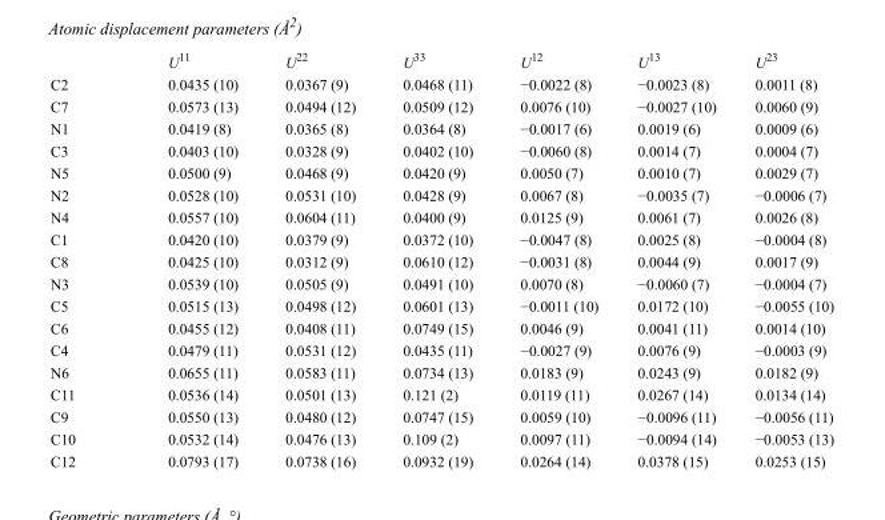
<table><thead><tr><td></td><td>U<sup>11</sup></td><td>U<sup>22</sup></td><td>U<sup>33</sup></td><td>U<sup>12</sup></td><td>U<sup>13</sup></td><td>U<sup>23</sup></td></tr></thead><tbody><tr><td>C2</td><td>0.0435 (10)</td><td>0.0367 (9)</td><td>0.0468 (11)</td><td>−0.0022 (8)</td><td>−0.0023 (8)</td><td>0.0011 (8)</td></tr><tr><td>C7</td><td>0.0573 (13)</td><td>0.0494 (12)</td><td>0.0509 (12)</td><td>0.0076 (10)</td><td>−0.0027 (10)</td><td>0.0060 (9)</td></tr><tr><td>N1</td><td>0.0419 (8)</td><td>0.0365 (8)</td><td>0.0364 (8)</td><td>−0.0017 (6)</td><td>0.0019 (6)</td><td>0.0009 (6)</td></tr><tr><td>C3</td><td>0.0403 (10)</td><td>0.0328 (9)</td><td>0.0402 (10)</td><td>−0.0060 (8)</td><td>0.0014 (7)</td><td>0.0004 (7)</td></tr><tr><td>N5</td><td>0.0500 (9)</td><td>0.0468 (9)</td><td>0.0420 (9)</td><td>0.0050 (7)</td><td>0.0010 (7)</td><td>0.0029 (7)</td></tr><tr><td>N2</td><td>0.0528 (10)</td><td>0.0531 (10)</td><td>0.0428 (9)</td><td>0.0067 (8)</td><td>−0.0035 (7)</td><td>−0.0006 (7)</td></tr><tr><td>N4</td><td>0.0557 (10)</td><td>0.0604 (11)</td><td>0.0400 (9)</td><td>0.0125 (9)</td><td>0.0061 (7)</td><td>0.0026 (8)</td></tr><tr><td>C1</td><td>0.0420 (10)</td><td>0.0379 (9)</td><td>0.0372 (10)</td><td>−0.0047 (8)</td><td>0.0025 (8)</td><td>−0.0004 (8)</td></tr><tr><td>C8</td><td>0.0425 (10)</td><td>0.0312 (9)</td><td>0.0610 (12)</td><td>−0.0031 (8)</td><td>0.0044 (9)</td><td>0.0017 (9)</td></tr><tr><td>N3</td><td>0.0539 (10)</td><td>0.0505 (9)</td><td>0.0491 (10)</td><td>0.0070 (8)</td><td>−0.0060 (7)</td><td>−0.0004 (7)</td></tr><tr><td>C5</td><td>0.0515 (13)</td><td>0.0498 (12)</td><td>0.0601 (13)</td><td>−0.0011 (10)</td><td>0.0172 (10)</td><td>−0.0055 (10)</td></tr><tr><td>C6</td><td>0.0455 (12)</td><td>0.0408 (11)</td><td>0.0749 (15)</td><td>0.0046 (9)</td><td>0.0041 (11)</td><td>0.0014 (10)</td></tr><tr><td>C4</td><td>0.0479 (11)</td><td>0.0531 (12)</td><td>0.0435 (11)</td><td>−0.0027 (9)</td><td>0.0076 (9)</td><td>−0.0003 (9)</td></tr><tr><td>N6</td><td>0.0655 (11)</td><td>0.0583 (11)</td><td>0.0734 (13)</td><td>0.0183 (9)</td><td>0.0243 (9)</td><td>0.0182 (9)</td></tr><tr><td>C11</td><td>0.0536 (14)</td><td>0.0501 (13)</td><td>0.121 (2)</td><td>0.0119 (11)</td><td>0.0267 (14)</td><td>0.0134 (14)</td></tr><tr><td>C9</td><td>0.0550 (13)</td><td>0.0480 (12)</td><td>0.0747 (15)</td><td>0.0059 (10)</td><td>−0.0096 (11)</td><td>−0.0056 (11)</td></tr><tr><td>C10</td><td>0.0532 (14)</td><td>0.0476 (13)</td><td>0.109 (2)</td><td>0.0097 (11)</td><td>−0.0094 (14)</td><td>−0.0053 (13)</td></tr><tr><td>C12</td><td>0.0793 (17)</td><td>0.0738 (16)</td><td>0.0932 (19)</td><td>0.0264 (14)</td><td>0.0378 (15)</td><td>0.0253 (15)</td></tr></tbody></table>